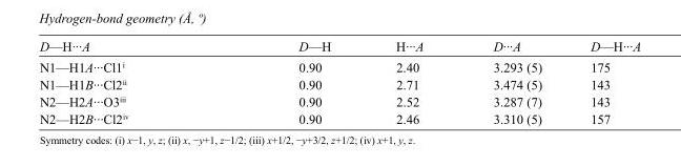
<table><tbody><tr><td>D—H···A</td><td>D—H</td><td>H···A</td><td>D···A</td><td>D—H···A</td></tr><tr><td>N1—H1A···Cl1<sup>i</sup></td><td>0.90</td><td>2.40</td><td>3.293 (5)</td><td>175</td></tr><tr><td>N1—H1B···Cl2<sup>ii</sup></td><td>0.90</td><td>2.71</td><td>3.474 (5)</td><td>143</td></tr><tr><td>N2—H2A···O3<sup>iii</sup></td><td>0.90</td><td>2.52</td><td>3.287 (7)</td><td>143</td></tr><tr><td>N2—H2B···Cl2<sup>iv</sup></td><td>0.90</td><td>2.46</td><td>3.310 (5)</td><td>157</td></tr></tbody></table>